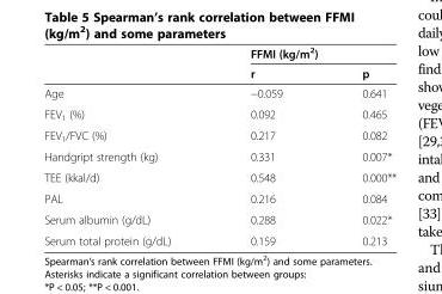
<table><thead><tr><td rowspan="2"></td><td colspan="2">FFMI (kg/m<sup>2</sup>)</td></tr><tr><td>r</td><td>p</td></tr></thead><tbody><tr><td>Age</td><td>−0.059</td><td>0.641</td></tr><tr><td>FEV<sub>1</sub> (%)</td><td>0.092</td><td>0.465</td></tr><tr><td>FEV<sub>1</sub>/FVC (%)</td><td>0.217</td><td>0.082</td></tr><tr><td>Handgript strength (kg)</td><td>0.331</td><td>0.007*</td></tr><tr><td>TEE (kkal/d)</td><td>0.548</td><td>0.000**</td></tr><tr><td>PAL</td><td>0.216</td><td>0.084</td></tr><tr><td>Serum albumin (g/dL)</td><td>0.288</td><td>0.022*</td></tr><tr><td>Serum total protein (g/dL)</td><td>0.159</td><td>0.213</td></tr></tbody></table>